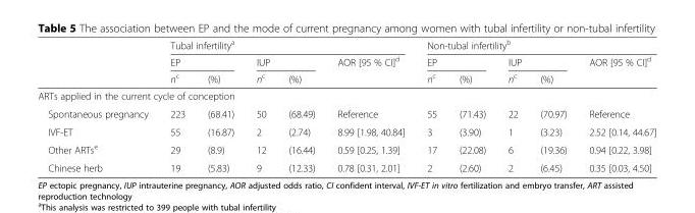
<table><thead><tr><td rowspan="3"></td><td colspan="5">Tubal infertility<sup>a</sup></td><td colspan="5">Non-tubal infertility<sup>b</sup></td></tr><tr><td colspan="2">EP</td><td colspan="2">IUP</td><td rowspan="2">AOR [95 % CI]<sup>d</sup></td><td colspan="2">EP</td><td colspan="2">IUP</td><td rowspan="2">AOR [95 % CI]<sup>d</sup></td></tr><tr><td>n<sup>c</sup></td><td>(%)</td><td>n<sup>c</sup></td><td>(%)</td><td>n<sup>c</sup></td><td>(%)</td><td>n<sup>c</sup></td><td>(%)</td></tr></thead><tbody><tr><td colspan="11">ARTs applied in the current cycle of conception</td></tr><tr><td>Spontaneous pregnancy</td><td>223</td><td>(68.41)</td><td>50</td><td>(68.49)</td><td>Reference</td><td>55</td><td>(71.43)</td><td>22</td><td>(70.97)</td><td>Reference</td></tr><tr><td>IVF-ET</td><td>55</td><td>(16.87)</td><td>2</td><td>(2.74)</td><td>8.99 [1.98, 40.84]</td><td>3</td><td>(3.90)</td><td>1</td><td>(3.23)</td><td>2.52 [0.14, 44.67]</td></tr><tr><td>Other ARTs<sup>e</sup></td><td>29</td><td>(8.9)</td><td>12</td><td>(16.44)</td><td>0.59 [0.25, 1.39]</td><td>17</td><td>(22.08)</td><td>6</td><td>(19.36)</td><td>0.94 [0.22, 3.98]</td></tr><tr><td>Chinese herb</td><td>19</td><td>(5.83)</td><td>9</td><td>(12.33)</td><td>0.78 [0.31, 2.01]</td><td>2</td><td>(2.60)</td><td>2</td><td>(6.45)</td><td>0.35 [0.03, 4.50]</td></tr></tbody></table>